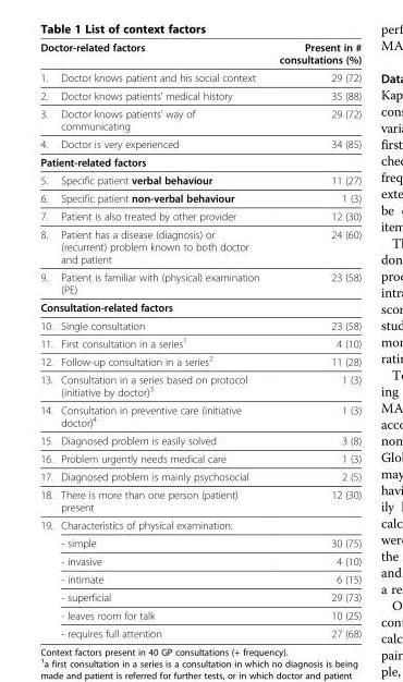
<table><thead><tr><td colspan="2">Doctor-related factors</td><td rowspan="2">Present in # consultations (%) 29 (72)</td></tr><tr><td>1.</td><td>Doctor knows patient and his social context</td></tr></thead><tbody><tr><td>2.</td><td>Doctor knows patients’ medical history</td><td>35 (88)</td></tr><tr><td>3.</td><td>Doctor knows patients’ way of communicating</td><td>29 (72)</td></tr><tr><td>4.</td><td>Doctor is very experienced</td><td>34 (85)</td></tr><tr><td colspan="3">Patient-related factors</td></tr><tr><td>5.</td><td>Specific patient verbal behaviour</td><td>11 (27)</td></tr><tr><td>6.</td><td>Specific patient non-verbal behaviour</td><td>1 (3)</td></tr><tr><td>7.</td><td>Patient is also treated by other provider</td><td>12 (30)</td></tr><tr><td>8.</td><td>Patient has a disease (diagnosis) or (recurrent) problem known to both doctor and patient</td><td>24 (60)</td></tr><tr><td>9.</td><td>Patient is familiar with (physical) examination (PE)</td><td>23 (58)</td></tr><tr><td colspan="3">Consultation-related factors</td></tr><tr><td>10.</td><td>Single consultation</td><td>23 (58)</td></tr><tr><td>11.</td><td>First consultation in a series<sup>1</sup></td><td>4 (10)</td></tr><tr><td>12.</td><td>Follow-up consultation in a series<sup>2</sup></td><td>11 (28)</td></tr><tr><td>13.</td><td>Consultation in a series based on protocol (initiative by doctor)<sup>3</sup></td><td>1 (3)</td></tr><tr><td>14.</td><td>Consultation in preventive care (initiative doctor)<sup>4</sup></td><td>1 (3)</td></tr><tr><td>15.</td><td>Diagnosed problem is easily solved</td><td>3 (8)</td></tr><tr><td>16.</td><td>Problem urgently needs medical care</td><td>1 (3)</td></tr><tr><td>17.</td><td>Diagnosed problem is mainly psychosocial</td><td>2 (5)</td></tr><tr><td>18.</td><td>There is more than one person (patient) present</td><td>12 (30)</td></tr><tr><td rowspan="7">19.</td><td>Characteristics of physical examination:</td><td></td></tr><tr><td>- simple</td><td>30 (75)</td></tr><tr><td>- invasive</td><td>4 (10)</td></tr><tr><td>- intimate</td><td>6 (15)</td></tr><tr><td>- superficial</td><td>29 (73)</td></tr><tr><td>- leaves room for talk</td><td>10 (25)</td></tr><tr><td>- requires full attention</td><td>27 (68)</td></tr></tbody></table>